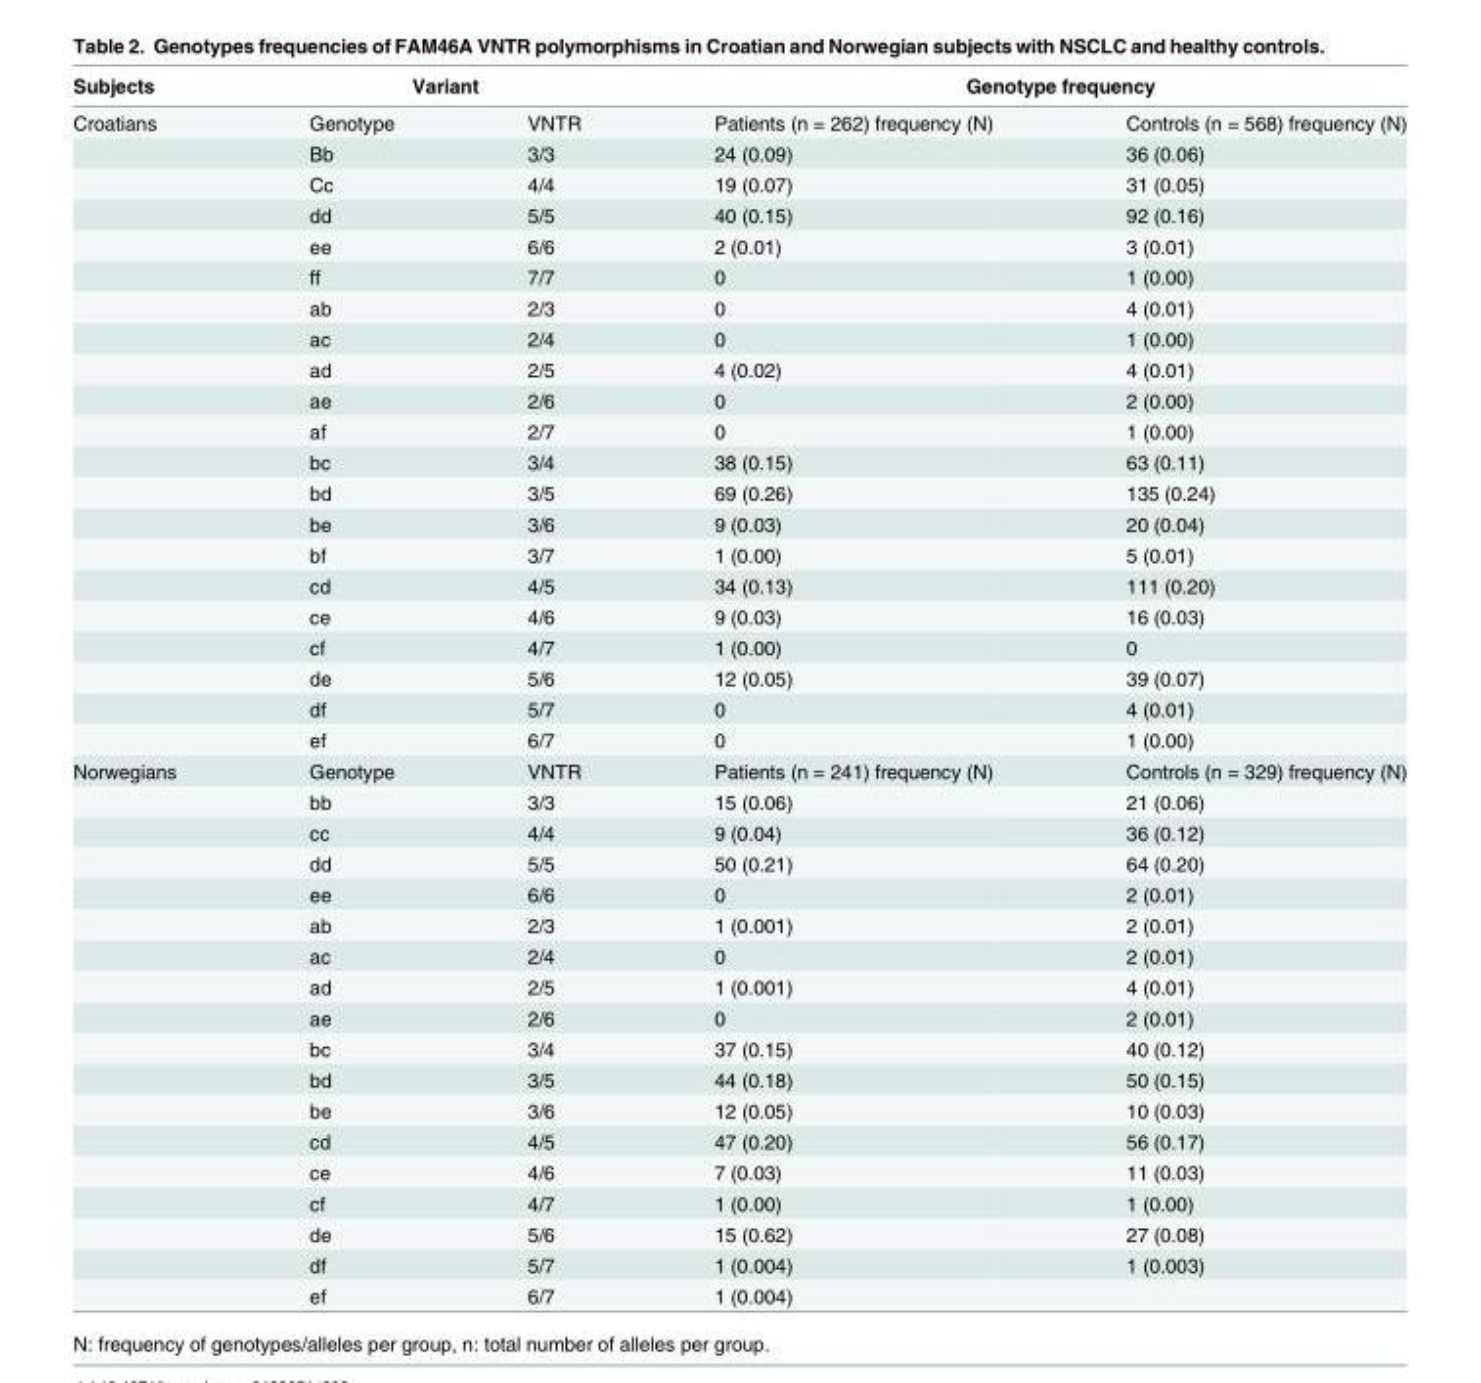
<table><thead><tr><td rowspan="2">Subjects Croatians</td><td colspan="2">Variant</td><td colspan="2">Genotype frequency</td></tr><tr><td>Genotype</td><td>VNTR</td><td>Patients (n = 262) frequency (N)</td><td>Controls (n = 568) frequency (N)</td></tr></thead><tbody><tr><td></td><td>Bb</td><td>3/3</td><td>24 (0.09)</td><td>36 (0.06)</td></tr><tr><td></td><td>Cc</td><td>4/4</td><td>19 (0.07)</td><td>31 (0.05)</td></tr><tr><td></td><td>dd</td><td>5/5</td><td>40 (0.15)</td><td>92 (0.16)</td></tr><tr><td></td><td>ee</td><td>6/6</td><td>2 (0.01)</td><td>3 (0.01)</td></tr><tr><td></td><td>ff</td><td>7/7</td><td>0</td><td>1 (0.00)</td></tr><tr><td></td><td>ab</td><td>2/3</td><td>0</td><td>4 (0.01)</td></tr><tr><td></td><td>ac</td><td>2/4</td><td>0</td><td>1 (0.00)</td></tr><tr><td></td><td>ad</td><td>2/5</td><td>4 (0.02)</td><td>4 (0.01)</td></tr><tr><td></td><td>ae</td><td>2/6</td><td>0</td><td>2 (0.00)</td></tr><tr><td></td><td>af</td><td>2/7</td><td>0</td><td>1 (0.00)</td></tr><tr><td></td><td>bc</td><td>3/4</td><td>38 (0.15)</td><td>63 (0.11)</td></tr><tr><td></td><td>bd</td><td>3/5</td><td>69 (0.26)</td><td>135 (0.24)</td></tr><tr><td></td><td>be</td><td>3/6</td><td>9 (0.03)</td><td>20 (0.04)</td></tr><tr><td></td><td>bf</td><td>3/7</td><td>1 (0.00)</td><td>5 (0.01)</td></tr><tr><td></td><td>cd</td><td>4/5</td><td>34 (0.13)</td><td>111 (0.20)</td></tr><tr><td></td><td>ce</td><td>4/6</td><td>9 (0.03)</td><td>16 (0.03)</td></tr><tr><td></td><td>cf</td><td>4/7</td><td>1 (0.00)</td><td>0</td></tr><tr><td></td><td>de</td><td>5/6</td><td>12 (0.05)</td><td>39 (0.07)</td></tr><tr><td></td><td>df</td><td>5/7</td><td>0</td><td>4 (0.01)</td></tr><tr><td></td><td>ef</td><td>6/7</td><td>0</td><td>1 (0.00)</td></tr><tr><td rowspan="18">Norwegians</td><td>Genotype</td><td>VNTR</td><td>Patients (n = 241) frequency (N)</td><td>Controls (n = 329) frequency (N)</td></tr><tr><td>bb</td><td>3/3</td><td>15 (0.06)</td><td>21 (0.06)</td></tr><tr><td>cc</td><td>4/4</td><td>9 (0.04)</td><td>36 (0.12)</td></tr><tr><td>dd</td><td>5/5</td><td>50 (0.21)</td><td>64 (0.20)</td></tr><tr><td>ee</td><td>6/6</td><td>0</td><td>2 (0.01)</td></tr><tr><td>ab</td><td>2/3</td><td>1 (0.001)</td><td>2 (0.01)</td></tr><tr><td>ac</td><td>2/4</td><td>0</td><td>2 (0.01)</td></tr><tr><td>ad</td><td>2/5</td><td>1 (0.001)</td><td>4 (0.01)</td></tr><tr><td>ae</td><td>2/6</td><td>0</td><td>2 (0.01)</td></tr><tr><td>bc</td><td>3/4</td><td>37 (0.15)</td><td>40 (0.12)</td></tr><tr><td>bd</td><td>3/5</td><td>44 (0.18)</td><td>50 (0.15)</td></tr><tr><td>be</td><td>3/6</td><td>12 (0.05)</td><td>10 (0.03)</td></tr><tr><td>cd</td><td>4/5</td><td>47 (0.20)</td><td>56 (0.17)</td></tr><tr><td>ce</td><td>4/6</td><td>7 (0.03)</td><td>11 (0.03)</td></tr><tr><td>cf</td><td>4/7</td><td>1 (0.00)</td><td>1 (0.00)</td></tr><tr><td>de</td><td>5/6</td><td>15 (0.62)</td><td>27 (0.08)</td></tr><tr><td>df</td><td>5/7</td><td>1 (0.004)</td><td>1 (0.003)</td></tr><tr><td>ef</td><td>6/7</td><td>1 (0.004)</td><td></td></tr></tbody></table>